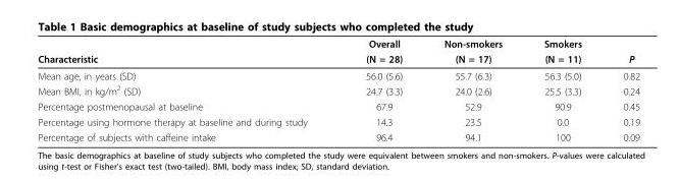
<table><thead><tr><td rowspan="2">Characteristic</td><td rowspan="2">Overall (N = 28)</td><td rowspan="2">Non-smokers (N = 17)</td><td rowspan="2">Smokers (N = 11)</td><td rowspan="2">P</td></tr><tr></tr></thead><tbody><tr><td>Mean age, in years (SD)</td><td>56.0 (5.6)</td><td>55.7 (6.3)</td><td>56.3 (5.0)</td><td>0.82</td></tr><tr><td>Mean BMI, in kg/m<sup>2</sup> (SD)</td><td>24.7 (3.3)</td><td>24.0 (2.6)</td><td>25.5 (3.3)</td><td>0.24</td></tr><tr><td>Percentage postmenopausal at baseline</td><td>67.9</td><td>52.9</td><td>90.9</td><td>0.45</td></tr><tr><td>Percentage using hormone therapy at baseline and during study</td><td>14.3</td><td>23.5</td><td>0.0</td><td>0.19</td></tr><tr><td>Percentage of subjects with caffeine intake</td><td>96.4</td><td>94.1</td><td>100</td><td>0.09</td></tr></tbody></table>